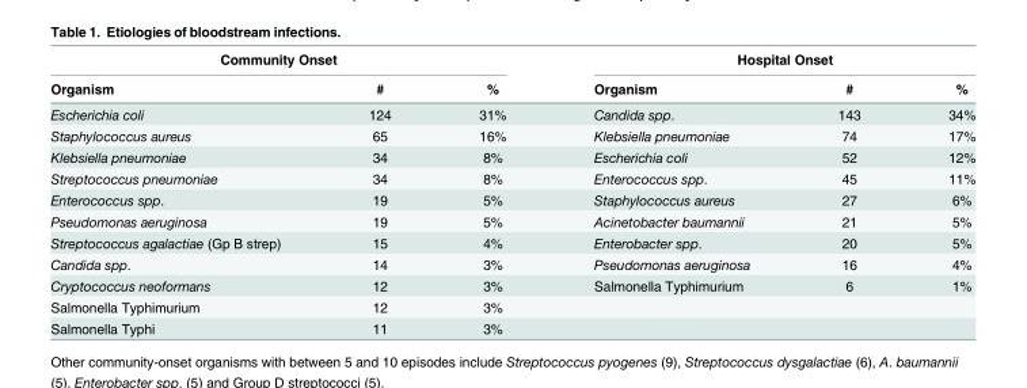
<table><thead><tr><td colspan="3">Community Onset</td><td colspan="3">Hospital Onset</td></tr><tr><td>Organism</td><td>#</td><td>%</td><td>Organism</td><td>#</td><td>%</td></tr></thead><tbody><tr><td>Escherichia coli</td><td>124</td><td>31%</td><td>Candida spp.</td><td>143</td><td>34%</td></tr><tr><td>Staphylococcus aureus</td><td>65</td><td>16%</td><td>Klebsiella pneumoniae</td><td>74</td><td>17%</td></tr><tr><td>Klebsiella pneumoniae</td><td>34</td><td>8%</td><td>Escherichia coli</td><td>52</td><td>12%</td></tr><tr><td>Streptococcus pneumoniae</td><td>34</td><td>8%</td><td>Enterococcus spp.</td><td>45</td><td>11%</td></tr><tr><td>Enterococcus spp.</td><td>19</td><td>5%</td><td>Staphylococcus aureus</td><td>27</td><td>6%</td></tr><tr><td>Pseudomonas aeruginosa</td><td>19</td><td>5%</td><td>Acinetobacter baumannii</td><td>21</td><td>5%</td></tr><tr><td>Streptococcus agalactiae (Gp B strep)</td><td>15</td><td>4%</td><td>Enterobacter spp.</td><td>20</td><td>5%</td></tr><tr><td>Candida spp.</td><td>14</td><td>3%</td><td>Pseudomonas aeruginosa</td><td>16</td><td>4%</td></tr><tr><td>Cryptococcus neoformans</td><td>12</td><td>3%</td><td>Salmonella Typhimurium</td><td>6</td><td>1%</td></tr><tr><td>Salmonella Typhimurium</td><td>12</td><td>3%</td><td></td><td></td><td></td></tr><tr><td>Salmonella Typhi</td><td>11</td><td>3%</td><td></td><td></td><td></td></tr></tbody></table>